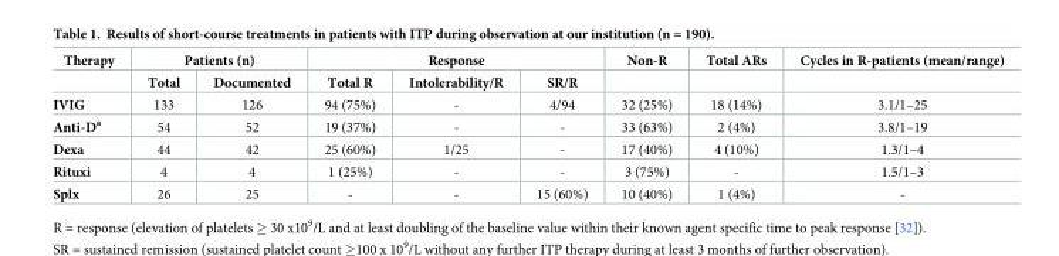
<table><thead><tr><td rowspan="2">Therapy</td><td colspan="2">Patients (n)</td><td colspan="3">Response</td><td rowspan="2">Non-R</td><td rowspan="2">Total ARs</td><td rowspan="2">Cycles in R-patients (mean/range)</td></tr><tr><td>Total</td><td>Documented</td><td>Total R</td><td>Intolerability/R</td><td>SR/R</td></tr></thead><tbody><tr><td>IVIG</td><td>133</td><td>126</td><td>94 (75%)</td><td>-</td><td>4/94</td><td>32 (25%)</td><td>18 (14%)</td><td>3.1/1–25</td></tr><tr><td>Anti-D<sup>a</sup></td><td>54</td><td>52</td><td>19 (37%)</td><td>-</td><td>-</td><td>33 (63%)</td><td>2 (4%)</td><td>3.8/1–19</td></tr><tr><td>Dexa</td><td>44</td><td>42</td><td>25 (60%)</td><td>1/25</td><td>-</td><td>17 (40%)</td><td>4 (10%)</td><td>1.3/1–4</td></tr><tr><td>Rituxi</td><td>4</td><td>4</td><td>1 (25%)</td><td>-</td><td>-</td><td>3 (75%)</td><td>-</td><td>1.5/1–3</td></tr><tr><td>Splx</td><td>26</td><td>25</td><td>-</td><td>-</td><td>15 (60%)</td><td>10 (40%)</td><td>1 (4%)</td><td>-</td></tr></tbody></table>